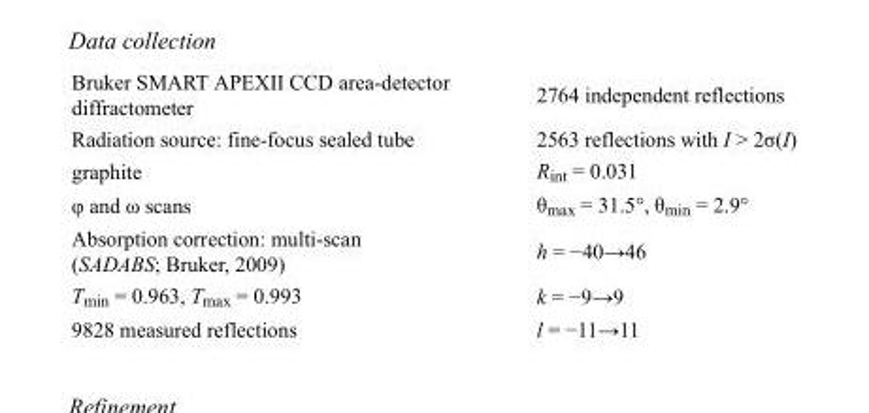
<table><tbody><tr><td>Bruker SMART APEXII CCD area-detector diffractometer</td><td>2764 independent reflections</td></tr><tr><td>Radiation source: fine-focus sealed tube</td><td>2563 reflections with I &gt; 2σ(I)</td></tr><tr><td>graphite</td><td>R<sub>int</sub> = 0.031</td></tr><tr><td>φ and ω scans</td><td>θ<sub>max</sub> = 31.5°, θ<sub>min</sub> = 2.9°</td></tr><tr><td>Absorption correction: multi-scan (SADABS; Bruker, 2009)</td><td>h = −40→46</td></tr><tr><td>T<sub>min</sub> = 0.963, T<sub>max</sub> = 0.993</td><td>k = −9→9</td></tr><tr><td>9828 measured reflections</td><td>l = −11→11</td></tr></tbody></table>